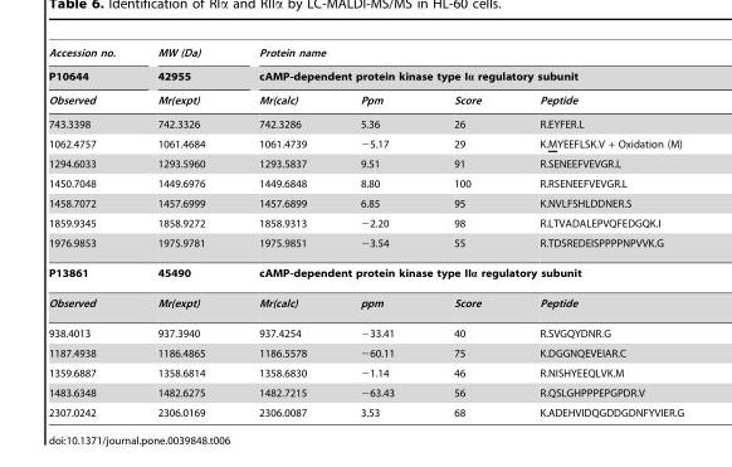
<table><thead><tr><td rowspan="3">Accession no. P10644 Observed</td><td rowspan="3">MW (Da) 42955 Mr(expt)</td><td rowspan="2" colspan="4">Protein name cAMP-dependent protein kinase type Iα regulatory subunit</td></tr><tr></tr><tr><td>Mr(calc)</td><td>Ppm</td><td>Score</td><td>Peptide</td></tr></thead><tbody><tr><td>743.3398</td><td>742.3326</td><td>742.3286</td><td>5.36</td><td>26</td><td>R.EYFER.L</td></tr><tr><td>1062.4757</td><td>1061.4684</td><td>1061.4739</td><td>−5.17</td><td>29</td><td>K.MYEEFLSK.V + Oxidation (M)</td></tr><tr><td>1294.6033</td><td>1293.5960</td><td>1293.5837</td><td>9.51</td><td>91</td><td>R.SENEEFVEVGR.L</td></tr><tr><td>1450.7048</td><td>1449.6976</td><td>1449.6848</td><td>8.80</td><td>100</td><td>R.RSENEEFVEVGR.L</td></tr><tr><td>1458.7072</td><td>1457.6999</td><td>1457.6899</td><td>6.85</td><td>95</td><td>K.NVLFSHLDDNER.S</td></tr><tr><td>1859.9345</td><td>1858.9272</td><td>1858.9313</td><td>−2.20</td><td>98</td><td>R.LTVADALEPVQFEDGQK.I</td></tr><tr><td>1976.9853</td><td>1975.9781</td><td>1975.9851</td><td>−3.54</td><td>55</td><td>R.TDSREDEISPPPPNPVVK.G</td></tr><tr><td>P13861</td><td>45490</td><td colspan="4">cAMP-dependent protein kinase type IIα regulatory subunit</td></tr><tr><td>Observed</td><td>Mr(expt)</td><td>Mr(calc)</td><td>ppm</td><td>Score</td><td>Peptide</td></tr><tr><td>938.4013</td><td>937.3940</td><td>937.4254</td><td>−33.41</td><td>40</td><td>R.SVGQYDNR.G</td></tr><tr><td>1187.4938</td><td>1186.4865</td><td>1186.5578</td><td>−60.11</td><td>75</td><td>K.DGGNQEVEIAR.C</td></tr><tr><td>1359.6887</td><td>1358.6814</td><td>1358.6830</td><td>−1.14</td><td>46</td><td>R.NISHYEEQLVK.M</td></tr><tr><td>1483.6348</td><td>1482.6275</td><td>1482.7215</td><td>−63.43</td><td>56</td><td>R.QSLGHPPPEPGPDR.V</td></tr><tr><td>2307.0242</td><td>2306.0169</td><td>2306.0087</td><td>3.53</td><td>68</td><td>K.ADEHVIDQGDDGDNFYVIER.G</td></tr></tbody></table>